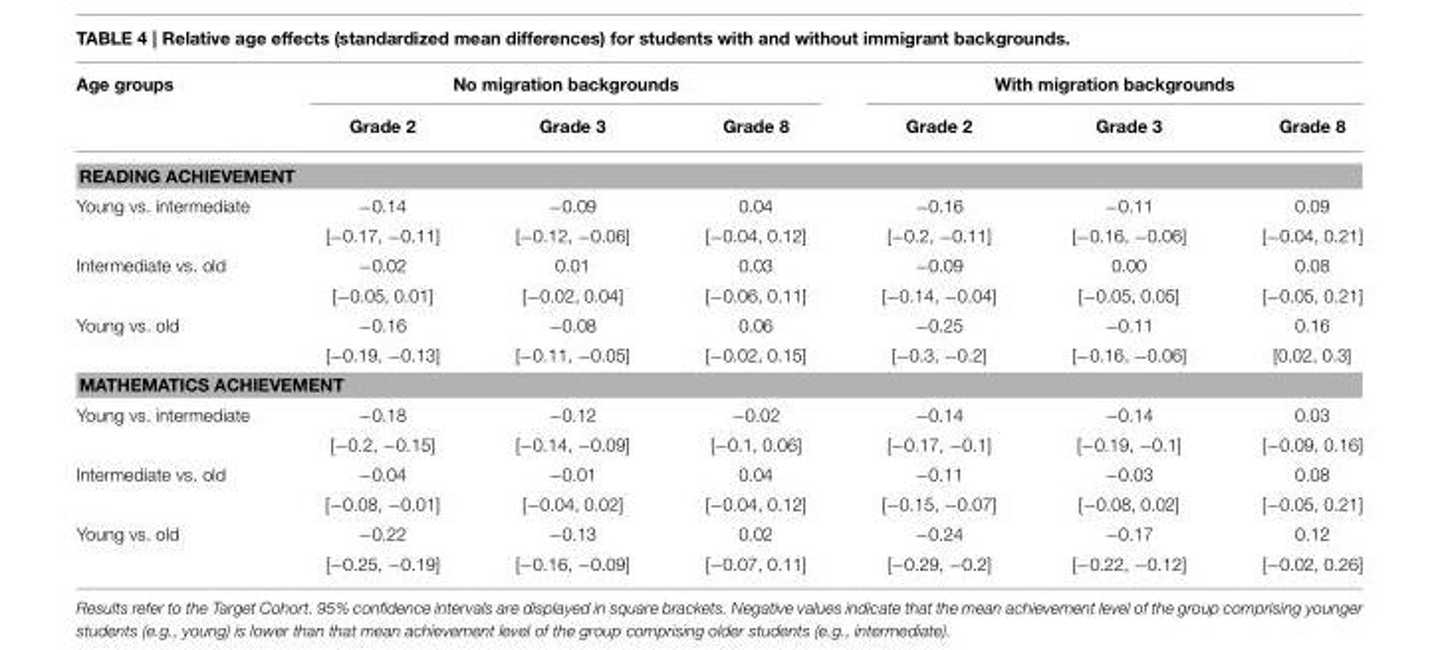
<table><thead><tr><td rowspan="2">Age groups</td><td colspan="3">No migration backgrounds</td><td colspan="3">With migration backgrounds</td></tr><tr><td>Grade 2</td><td>Grade 3</td><td>Grade 8</td><td>Grade 2</td><td>Grade 3</td><td>Grade 8</td></tr></thead><tbody><tr><td colspan="7">READING ACHIEVEMENT</td></tr><tr><td rowspan="2">Young vs. intermediate</td><td>−0.14</td><td>−0.09</td><td>0.04</td><td>−0.16</td><td>−0.11</td><td>0.09</td></tr><tr><td>[−0.17, −0.11]</td><td>[−0.12, −0.06]</td><td>[−0.04, 0.12]</td><td>[−0.2, −0.11]</td><td>[−0.16, −0.06]</td><td>[−0.04, 0.21]</td></tr><tr><td rowspan="2">Intermediate vs. old</td><td>−0.02</td><td>0.01</td><td>0.03</td><td>−0.09</td><td>0.00</td><td>0.08</td></tr><tr><td>[−0.05, 0.01]</td><td>[−0.02, 0.04]</td><td>[−0.06, 0.11]</td><td>[−0.14, −0.04]</td><td>[−0.05, 0.05]</td><td>[−0.05, 0.21]</td></tr><tr><td rowspan="2">Young vs. old</td><td>−0.16</td><td>−0.08</td><td>0.06</td><td>−0.25</td><td>−0.11</td><td>0.16</td></tr><tr><td>[−0.19, −0.13]</td><td>[−0.11, −0.05]</td><td>[−0.02, 0.15]</td><td>[−0.3, −0.2]</td><td>[−0.16, −0.06]</td><td>[0.02, 0.3]</td></tr><tr><td colspan="7">MATHEMATICS ACHIEVEMENT</td></tr><tr><td rowspan="2">Young vs. intermediate</td><td>−0.18</td><td>−0.12</td><td>−0.02</td><td>−0.14</td><td>−0.14</td><td>0.03</td></tr><tr><td>[−0.2, −0.15]</td><td>[−0.14, −0.09]</td><td>[−0.1, 0.06]</td><td>[−0.17, −0.1]</td><td>[−0.19, −0.1]</td><td>[−0.09, 0.16]</td></tr><tr><td rowspan="2">Intermediate vs. old</td><td>−0.04</td><td>−0.01</td><td>0.04</td><td>−0.11</td><td>−0.03</td><td>0.08</td></tr><tr><td>[−0.08, −0.01]</td><td>[−0.04, 0.02]</td><td>[−0.04, 0.12]</td><td>[−0.15, −0.07]</td><td>[−0.08, 0.02]</td><td>[−0.05, 0.21]</td></tr><tr><td rowspan="2">Young vs. old</td><td>−0.22</td><td>−0.13</td><td>0.02</td><td>−0.24</td><td>−0.17</td><td>0.12</td></tr><tr><td>[−0.25, −0.19]</td><td>[−0.16, −0.09]</td><td>[−0.07, 0.11]</td><td>[−0.29, −0.2]</td><td>[−0.22, −0.12]</td><td>[−0.02, 0.26]</td></tr></tbody></table>